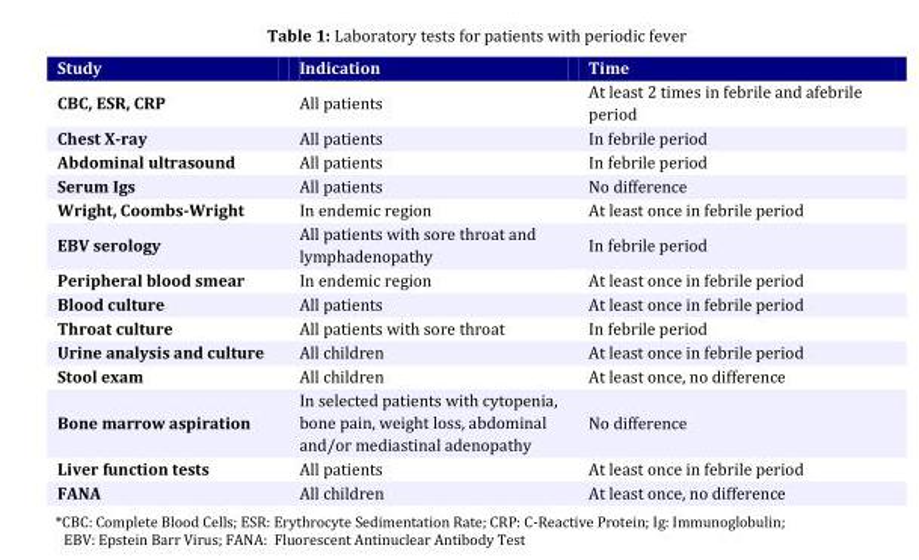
<table><thead><tr><td>Study</td><td>Indication</td><td>Time</td></tr></thead><tbody><tr><td>CBC, ESR, CRP</td><td>All patients</td><td>At least 2 times in febrile and afebrile period</td></tr><tr><td>Chest X-ray</td><td>All patients</td><td>In febrile period</td></tr><tr><td>Abdominal ultrasound</td><td>All patients</td><td>In febrile period</td></tr><tr><td>Serum Igs</td><td>All patients</td><td>No difference</td></tr><tr><td>Wright, Coombs-Wright</td><td>In endemic region</td><td>At least once in febrile period</td></tr><tr><td>EBV serology</td><td>All patients with sore throat and lymphadenopathy</td><td>In febrile period</td></tr><tr><td>Peripheral blood smear</td><td>In endemic region</td><td>At least once in febrile period</td></tr><tr><td>Blood culture</td><td>All patients</td><td>At least once in febrile period</td></tr><tr><td>Throat culture</td><td>All patients with sore throat</td><td>In febrile period</td></tr><tr><td>Urine analysis and culture</td><td>All children</td><td>At least once in febrile period</td></tr><tr><td>Stool exam</td><td>All children</td><td>At least once, no difference</td></tr><tr><td>Bone marrow aspiration</td><td>In selected patients with cytopenia, bone pain, weight loss, abdominal and/or mediastinal adenopathy</td><td>No difference</td></tr><tr><td>Liver function tests</td><td>All patients</td><td>At least once in febrile period</td></tr><tr><td>FANA</td><td>All children</td><td>At least once, no difference</td></tr></tbody></table>